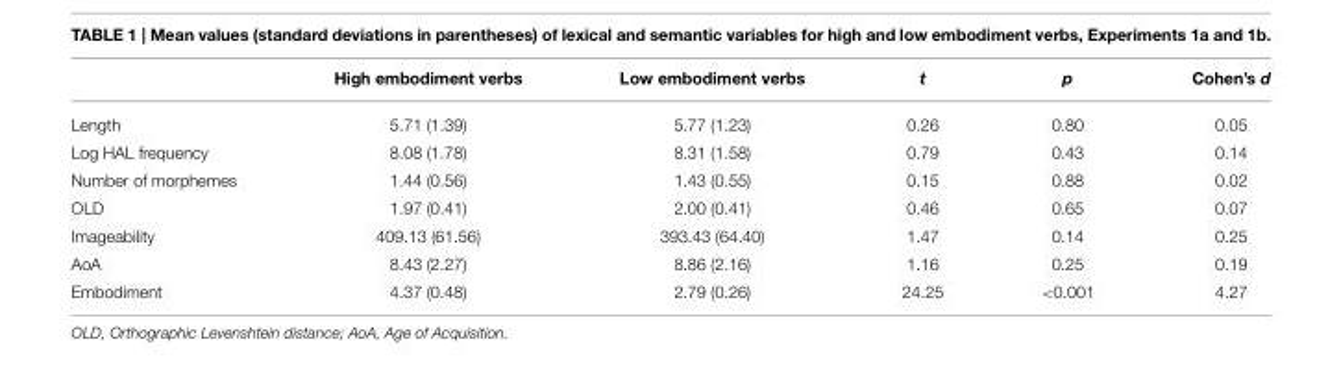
<table><thead><tr><td></td><td>High embodiment verbs</td><td>Low embodiment verbs</td><td>t</td><td>p</td><td>Cohen’s d</td></tr></thead><tbody><tr><td>Length</td><td>5.71 (1.39)</td><td>5.77 (1.23)</td><td>0.26</td><td>0.80</td><td>0.05</td></tr><tr><td>Log HAL frequency</td><td>8.08 (1.78)</td><td>8.31 (1.58)</td><td>0.79</td><td>0.43</td><td>0.14</td></tr><tr><td>Number of morphemes</td><td>1.44 (0.56)</td><td>1.43 (0.55)</td><td>0.15</td><td>0.88</td><td>0.02</td></tr><tr><td>OLD</td><td>1.97 (0.41)</td><td>2.00 (0.41)</td><td>0.46</td><td>0.65</td><td>0.07</td></tr><tr><td>Imageability</td><td>409.13 (61.56)</td><td>393.43 (64.40)</td><td>1.47</td><td>0.14</td><td>0.25</td></tr><tr><td>AoA</td><td>8.43 (2.27)</td><td>8.86 (2.16)</td><td>1.16</td><td>0.25</td><td>0.19</td></tr><tr><td>Embodiment</td><td>4.37 (0.48)</td><td>2.79 (0.26)</td><td>24.25</td><td>&lt;0.001</td><td>4.27</td></tr></tbody></table>